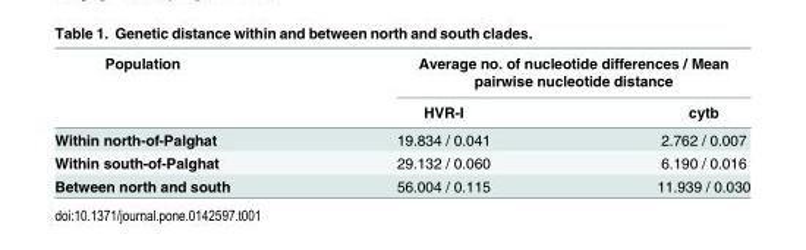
<table><thead><tr><td rowspan="2">Population</td><td colspan="2">Average no. of nucleotide differences / Mean pairwise nucleotide distance</td></tr><tr><td>HVR-I</td><td>cytb</td></tr></thead><tbody><tr><td>Within north-of-Palghat</td><td>19.834 / 0.041</td><td>2.762 / 0.007</td></tr><tr><td>Within south-of-Palghat</td><td>29.132 / 0.060</td><td>6.190 / 0.016</td></tr><tr><td>Between north and south</td><td>56.004 / 0.115</td><td>11.939 / 0.030</td></tr></tbody></table>